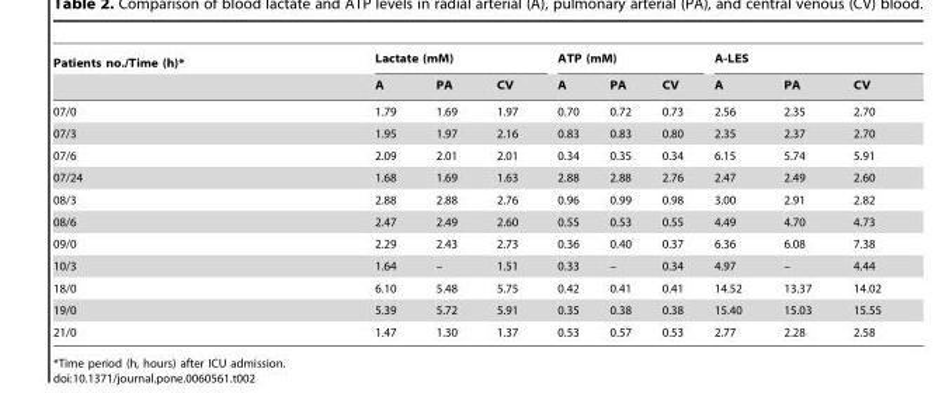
<table><thead><tr><td rowspan="2">Patients no./Time (h)*</td><td colspan="3">Lactate (mM)</td><td colspan="3">ATP (mM)</td><td colspan="3">A-LES</td></tr><tr><td>A</td><td>PA</td><td>CV</td><td>A</td><td>PA</td><td>CV</td><td>A</td><td>PA</td><td>CV</td></tr></thead><tbody><tr><td>07/0</td><td>1.79</td><td>1.69</td><td>1.97</td><td>0.70</td><td>0.72</td><td>0.73</td><td>2.56</td><td>2.35</td><td>2.70</td></tr><tr><td>07/3</td><td>1.95</td><td>1.97</td><td>2.16</td><td>0.83</td><td>0.83</td><td>0.80</td><td>2.35</td><td>2.37</td><td>2.70</td></tr><tr><td>07/6</td><td>2.09</td><td>2.01</td><td>2.01</td><td>0.34</td><td>0.35</td><td>0.34</td><td>6.15</td><td>5.74</td><td>5.91</td></tr><tr><td>07/24</td><td>1.68</td><td>1.69</td><td>1.63</td><td>2.88</td><td>2.88</td><td>2.76</td><td>2.47</td><td>2.49</td><td>2.60</td></tr><tr><td>08/3</td><td>2.88</td><td>2.88</td><td>2.76</td><td>0.96</td><td>0.99</td><td>0.98</td><td>3.00</td><td>2.91</td><td>2.82</td></tr><tr><td>08/6</td><td>2.47</td><td>2.49</td><td>2.60</td><td>0.55</td><td>0.53</td><td>0.55</td><td>4.49</td><td>4.70</td><td>4.73</td></tr><tr><td>09/0</td><td>2.29</td><td>2.43</td><td>2.73</td><td>0.36</td><td>0.40</td><td>0.37</td><td>6.36</td><td>6.08</td><td>7.38</td></tr><tr><td>10/3</td><td>1.64</td><td>–</td><td>1.51</td><td>0.33</td><td>–</td><td>0.34</td><td>4.97</td><td>–</td><td>4.44</td></tr><tr><td>18/0</td><td>6.10</td><td>5.48</td><td>5.75</td><td>0.42</td><td>0.41</td><td>0.41</td><td>14.52</td><td>13.37</td><td>14.02</td></tr><tr><td>19/0</td><td>5.39</td><td>5.72</td><td>5.91</td><td>0.35</td><td>0.38</td><td>0.38</td><td>15.40</td><td>15.03</td><td>15.55</td></tr><tr><td>21/0</td><td>1.47</td><td>1.30</td><td>1.37</td><td>0.53</td><td>0.57</td><td>0.53</td><td>2.77</td><td>2.28</td><td>2.58</td></tr></tbody></table>